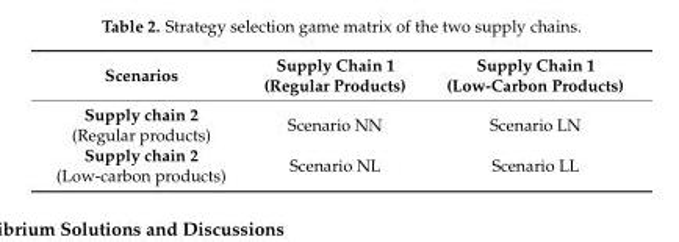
<table><thead><tr><td>Scenarios</td><td>Supply Chain 1 (Regular Products)</td><td>Supply Chain 1 (Low-Carbon Products)</td></tr></thead><tbody><tr><td>Supply chain 2 (Regular products)</td><td>Scenario NN</td><td>Scenario LN</td></tr><tr><td>Supply chain 2 (Low-carbon products)</td><td>Scenario NL</td><td>Scenario LL</td></tr></tbody></table>